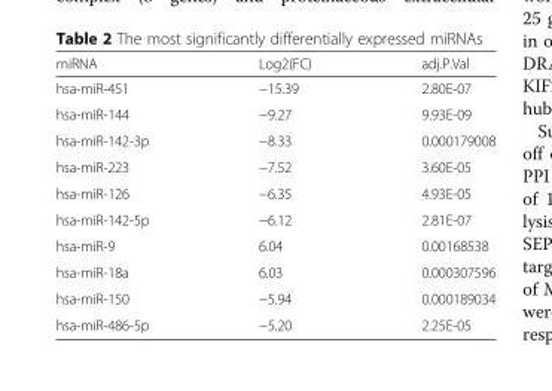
<table><thead><tr><td>miRNA</td><td>Log2(FC)</td><td>adj.P.Val</td></tr></thead><tbody><tr><td>hsa-miR-451</td><td>−15.39</td><td>2.80E-07</td></tr><tr><td>hsa-miR-144</td><td>−9.27</td><td>9.93E-09</td></tr><tr><td>hsa-miR-142-3p</td><td>−8.33</td><td>0.000179008</td></tr><tr><td>hsa-miR-223</td><td>−7.52</td><td>3.60E-05</td></tr><tr><td>hsa-miR-126</td><td>−6.35</td><td>4.93E-05</td></tr><tr><td>hsa-miR-142-5p</td><td>−6.12</td><td>2.81E-07</td></tr><tr><td>hsa-miR-9</td><td>6.04</td><td>0.00168538</td></tr><tr><td>hsa-miR-18a</td><td>6.03</td><td>0.000307596</td></tr><tr><td>hsa-miR-150</td><td>−5.94</td><td>0.000189034</td></tr><tr><td>hsa-miR-486-5p</td><td>−5.20</td><td>2.25E-05</td></tr></tbody></table>